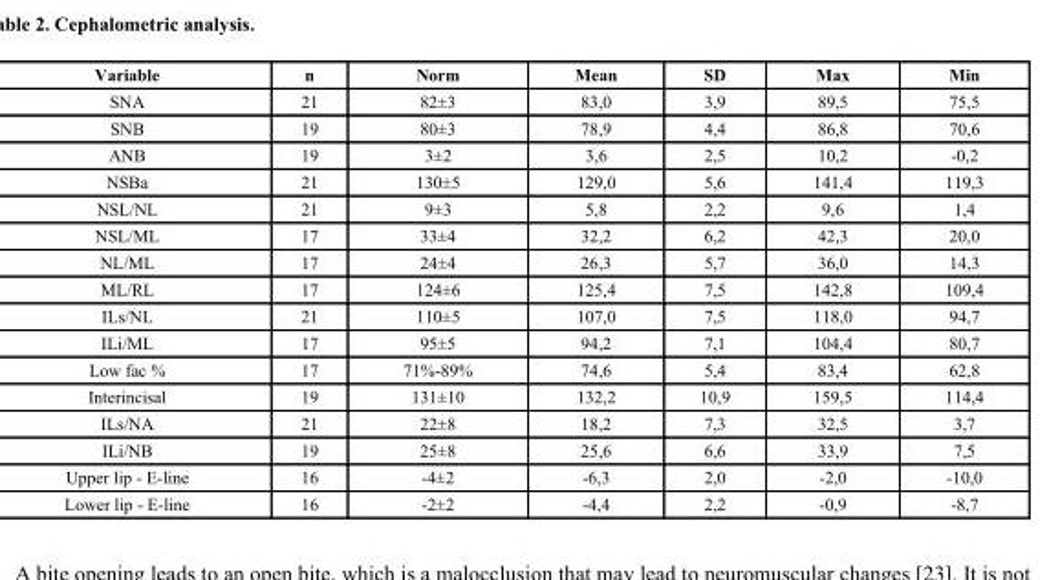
<table><thead><tr><td>Variable</td><td>n</td><td>Norm</td><td>Mean</td><td>SD</td><td>Max</td><td>Min</td></tr></thead><tbody><tr><td>SNA</td><td>21</td><td>82±3</td><td>83,0</td><td>3,9</td><td>89,5</td><td>75,5</td></tr><tr><td>SNB</td><td>19</td><td>80±3</td><td>78,9</td><td>4,4</td><td>86,8</td><td>70,6</td></tr><tr><td>ANB</td><td>19</td><td>3±2</td><td>3,6</td><td>2,5</td><td>10,2</td><td>-0,2</td></tr><tr><td>NSBa</td><td>21</td><td>130±5</td><td>129,0</td><td>5,6</td><td>141,4</td><td>119,3</td></tr><tr><td>NSL/NL</td><td>21</td><td>9±3</td><td>5,8</td><td>2,2</td><td>9,6</td><td>1,4</td></tr><tr><td>NSL/ML</td><td>17</td><td>33±4</td><td>32,2</td><td>6,2</td><td>42,3</td><td>20,0</td></tr><tr><td>NL/ML</td><td>17</td><td>24±4</td><td>26,3</td><td>5,7</td><td>36,0</td><td>14,3</td></tr><tr><td>ML/RL</td><td>17</td><td>124±6</td><td>125,4</td><td>7,5</td><td>142,8</td><td>109,4</td></tr><tr><td>ILs/NL</td><td>21</td><td>110±5</td><td>107,0</td><td>7,5</td><td>118,0</td><td>94,7</td></tr><tr><td>ILi/ML</td><td>17</td><td>95±5</td><td>94,2</td><td>7,1</td><td>104,4</td><td>80,7</td></tr><tr><td>Low fac %</td><td>17</td><td>71%-89%</td><td>74,6</td><td>5,4</td><td>83,4</td><td>62,8</td></tr><tr><td>Interincisal</td><td>19</td><td>131±10</td><td>132,2</td><td>10,9</td><td>159,5</td><td>114,4</td></tr><tr><td>ILs/NA</td><td>21</td><td>22±8</td><td>18,2</td><td>7,3</td><td>32,5</td><td>3,7</td></tr><tr><td>ILi/NB</td><td>19</td><td>25±8</td><td>25,6</td><td>6,6</td><td>33,9</td><td>7,5</td></tr><tr><td>Upper lip - E-line</td><td>16</td><td>-4±2</td><td>-6,3</td><td>2,0</td><td>-2,0</td><td>-10,0</td></tr><tr><td>Lower lip - E-line</td><td>16</td><td>-2±2</td><td>-4,4</td><td>2,2</td><td>-0,9</td><td>-8,7</td></tr></tbody></table>